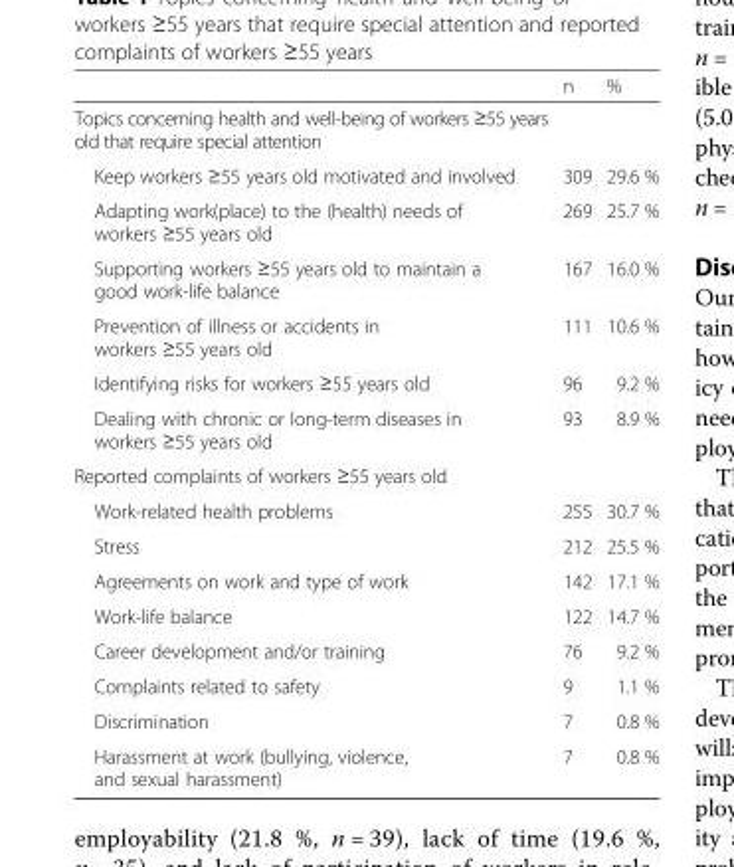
<table><thead><tr><td></td><td>n</td><td>%</td></tr></thead><tbody><tr><td colspan="3">Topics concerning health and well-being of workers ≥55 years old that require special attention</td></tr><tr><td>Keep workers ≥55 years old motivated and involved</td><td>309</td><td>29.6 %</td></tr><tr><td>Adapting work(place) to the (health) needs of workers ≥55 years old</td><td>269</td><td>25.7 %</td></tr><tr><td>Supporting workers ≥55 years old to maintain a good work-life balance</td><td>167</td><td>16.0 %</td></tr><tr><td>Prevention of illness or accidents in workers ≥55 years old</td><td>111</td><td>10.6 %</td></tr><tr><td>Identifying risks for workers ≥55 years old</td><td>96</td><td>9.2 %</td></tr><tr><td>Dealing with chronic or long-term diseases in workers ≥55 years old</td><td>93</td><td>8.9 %</td></tr><tr><td colspan="3">Reported complaints of workers ≥55 years old</td></tr><tr><td>Work-related health problems</td><td>255</td><td>30.7 %</td></tr><tr><td>Stress</td><td>212</td><td>25.5 %</td></tr><tr><td>Agreements on work and type of work</td><td>142</td><td>17.1 %</td></tr><tr><td>Work-life balance</td><td>122</td><td>14.7 %</td></tr><tr><td>Career development and/or training</td><td>76</td><td>9.2 %</td></tr><tr><td>Complaints related to safety</td><td>9</td><td>1.1 %</td></tr><tr><td>Discrimination</td><td>7</td><td>0.8 %</td></tr><tr><td>Harassment at work (bullying, violence, and sexual harassment)</td><td>7</td><td>0.8 %</td></tr></tbody></table>